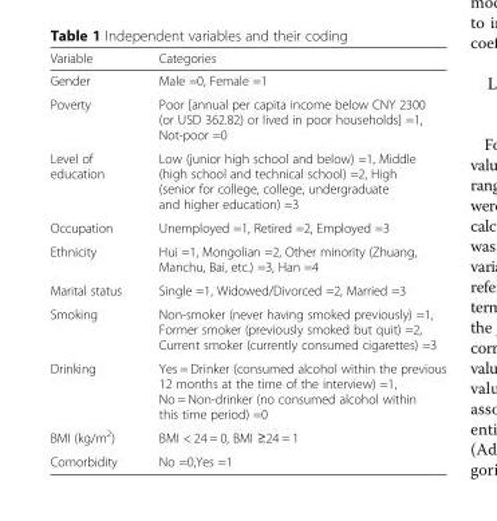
<table><thead><tr><td>Variable</td><td>Categories</td></tr></thead><tbody><tr><td>Gender</td><td>Male =0, Female =1</td></tr><tr><td>Poverty</td><td>Poor [annual per capita income below CNY 2300 (or USD 362.82) or lived in poor households] =1, Not-poor =0</td></tr><tr><td>Level of education</td><td>Low (junior high school and below) =1, Middle (high school and technical school) =2, High (senior for college, college, undergraduate and higher education) =3</td></tr><tr><td>Occupation</td><td>Unemployed =1, Retired =2, Employed =3</td></tr><tr><td>Ethnicity</td><td>Hui =1, Mongolian =2, Other minority (Zhuang, Manchu, Bai, etc.) =3, Han =4</td></tr><tr><td>Marital status</td><td>Single =1, Widowed/Divorced =2, Married =3</td></tr><tr><td>Smoking</td><td>Non-smoker (never having smoked previously) =1, Former smoker (previously smoked but quit) =2, Current smoker (currently consumed cigarettes) =3</td></tr><tr><td>Drinking</td><td>Yes = Drinker (consumed alcohol within the previous 12 months at the time of the interview) =1, No = Non-drinker (no consumed alcohol within this time period) =0</td></tr><tr><td>BMI (kg/m<sup>2</sup>)</td><td>BMI &lt; 24 = 0, BMI ≥24 = 1</td></tr><tr><td>Comorbidity</td><td>No =0,Yes =1</td></tr></tbody></table>